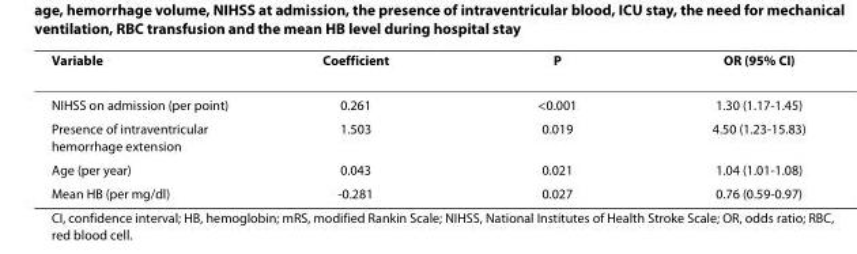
<table><thead><tr><td>Variable</td><td>Coefficient</td><td>P</td><td>OR (95% CI)</td></tr></thead><tbody><tr><td>NIHSS on admission (per point)</td><td>0.261</td><td>&lt;0.001</td><td>1.30 (1.17-1.45)</td></tr><tr><td>Presence of intraventricular hemorrhage extension</td><td>1.503</td><td>0.019</td><td>4.50 (1.23-15.83)</td></tr><tr><td>Age (per year)</td><td>0.043</td><td>0.021</td><td>1.04 (1.01-1.08)</td></tr><tr><td>Mean HB (per mg/dl)</td><td>-0.281</td><td>0.027</td><td>0.76 (0.59-0.97)</td></tr></tbody></table>